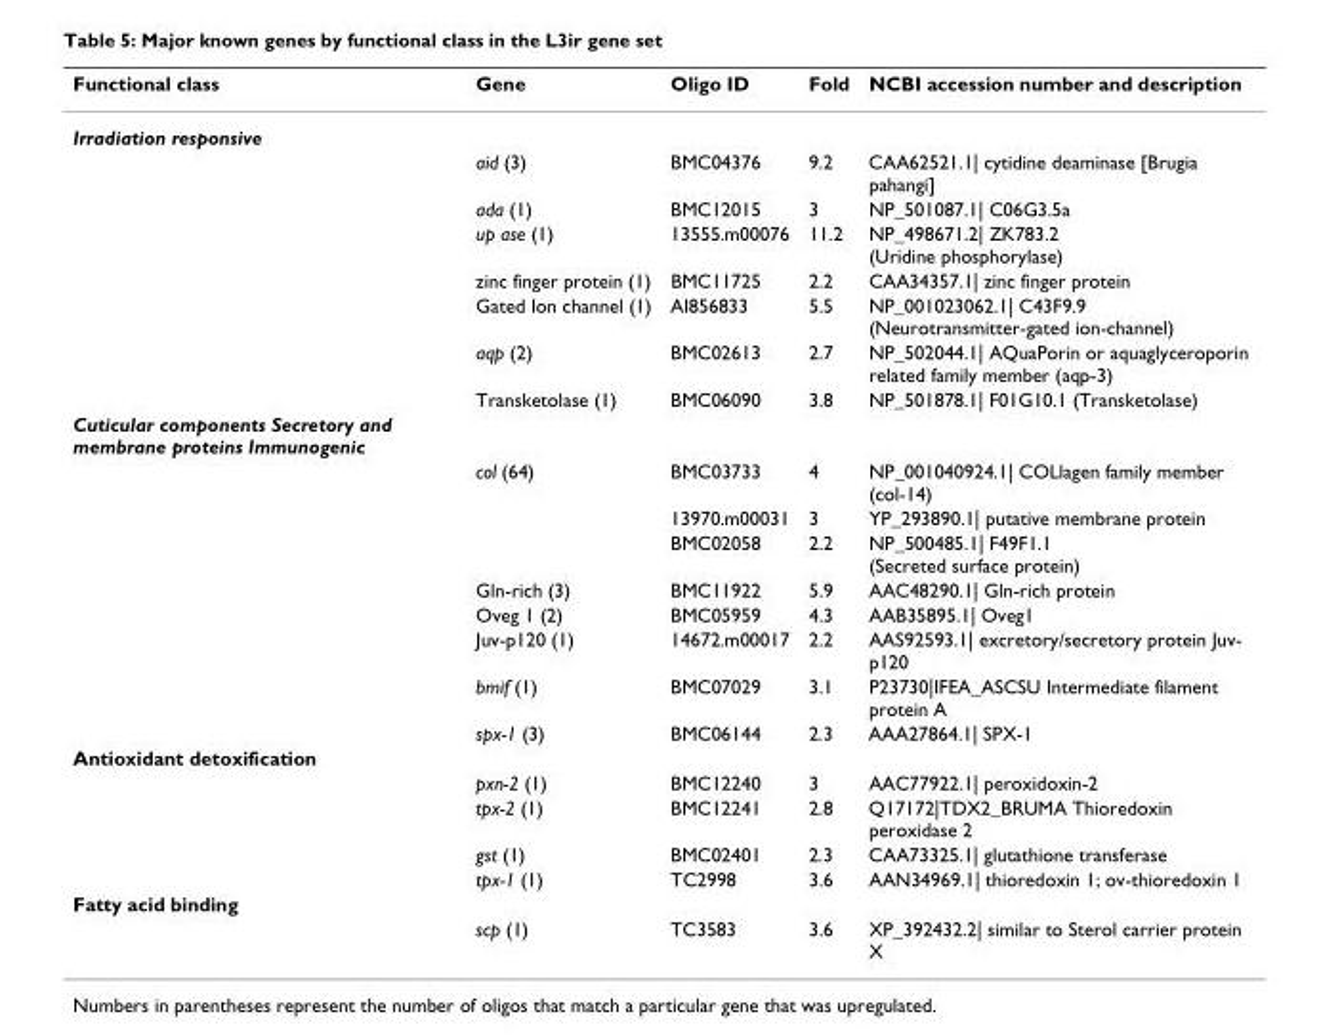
<table><thead><tr><td>Functional class</td><td>Gene</td><td>Oligo ID</td><td>Fold</td><td>NCBI accession number and description</td></tr></thead><tbody><tr><td colspan="5">Irradiation responsive</td></tr><tr><td></td><td>aid (3)</td><td>BMC04376</td><td>9.2</td><td>CAA62521.1| cytidine deaminase [Brugia pahangi]</td></tr><tr><td></td><td>ada (1)</td><td>BMC12015</td><td>3</td><td>NP_501087.1| C06G3.5a</td></tr><tr><td></td><td>up ase (1)</td><td>13555.m00076</td><td>11.2</td><td>NP_498671.2| ZK783.2 (Uridine phosphorylase)</td></tr><tr><td></td><td>zinc finger protein (1)</td><td>BMC11725</td><td>2.2</td><td>CAA34357.1| zinc finger protein</td></tr><tr><td></td><td>Gated Ion channel (1)</td><td>AI856833</td><td>5.5</td><td>NP_001023062.1| C43F9.9 (Neurotransmitter-gated ion-channel)</td></tr><tr><td></td><td>aqp (2)</td><td>BMC02613</td><td>2.7</td><td>NP_502044.1| AQuaPorin or aquaglyceroporin related family member (aqp-3)</td></tr><tr><td></td><td>Transketolase (1)</td><td>BMC06090</td><td>3.8</td><td>NP_501878.1| F01G10.1 (Transketolase)</td></tr><tr><td colspan="5">Cuticular components Secretory and membrane proteins Immunogenic</td></tr><tr><td></td><td>col (64)</td><td>BMC03733</td><td>4</td><td>NP_001040924.1| COLlagen family member (col-14)</td></tr><tr><td></td><td></td><td>13970.m00031</td><td>3</td><td>YP_293890.1| putative membrane protein</td></tr><tr><td></td><td></td><td>BMC02058</td><td>2.2</td><td>NP_500485.1| F49F1.1 (Secreted surface protein)</td></tr><tr><td></td><td>Gln-rich (3)</td><td>BMC11922</td><td>5.9</td><td>AAC48290.1| Gln-rich protein</td></tr><tr><td></td><td>Oveg 1 (2)</td><td>BMC05959</td><td>4.3</td><td>AAB35895.1| Oveg1</td></tr><tr><td></td><td>Juv-p120 (1)</td><td>14672.m00017</td><td>2.2</td><td>AAS92593.1| excretory/secretory protein Juv- p120</td></tr><tr><td></td><td>bmif (1)</td><td>BMC07029</td><td>3.1</td><td>P23730|IFEA_ASCSU Intermediate filament protein A</td></tr><tr><td></td><td>spx-1 (3)</td><td>BMC06144</td><td>2.3</td><td>AAA27864.1| SPX-1</td></tr><tr><td colspan="5">Antioxidant detoxification</td></tr><tr><td></td><td>pxn-2 (1)</td><td>BMC12240</td><td>3</td><td>AAC77922.1| peroxidoxin-2</td></tr><tr><td></td><td>tpx-2 (1)</td><td>BMC12241</td><td>2.8</td><td>Q17172|TDX2_BRUMA Thioredoxin peroxidase 2</td></tr><tr><td></td><td>gst (1)</td><td>BMC02401</td><td>2.3</td><td>CAA73325.1| glutathione transferase</td></tr><tr><td></td><td>tpx-1 (1)</td><td>TC2998</td><td>3.6</td><td>AAN34969.1| thioredoxin 1; ov-thioredoxin 1</td></tr><tr><td colspan="5">Fatty acid binding</td></tr><tr><td></td><td>scp (1)</td><td>TC3583</td><td>3.6</td><td>XP_392432.2| similar to Sterol carrier protein X</td></tr></tbody></table>